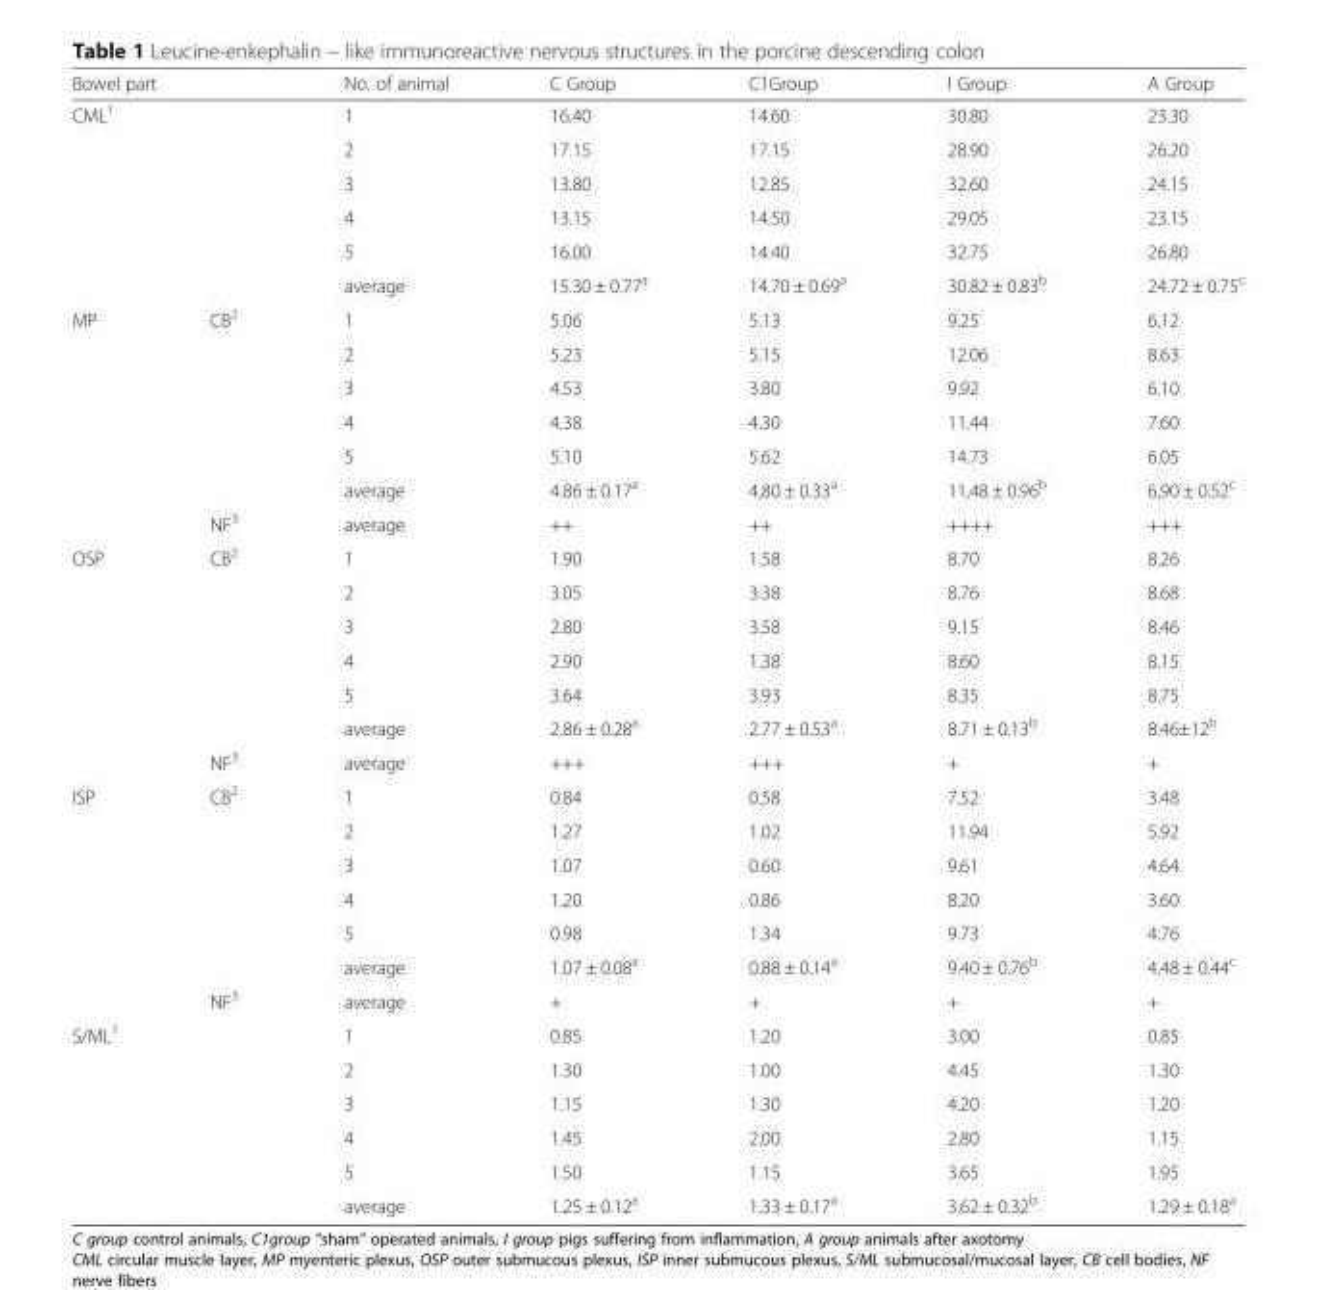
<table><thead><tr><td colspan="2">Bowel part</td><td>No. of animal</td><td>C Group</td><td>C1Group</td><td>I Group</td><td>A Group</td></tr></thead><tbody><tr><td rowspan="6" colspan="2">CML<sup>1</sup></td><td>1</td><td>16.40</td><td>14.60</td><td>30.80</td><td>23.30</td></tr><tr><td>2</td><td>17.15</td><td>17.15</td><td>28.90</td><td>26.20</td></tr><tr><td>3</td><td>13.80</td><td>12.85</td><td>32.60</td><td>24.15</td></tr><tr><td>4</td><td>13.15</td><td>14.50</td><td>29.05</td><td>23.15</td></tr><tr><td>5</td><td>16.00</td><td>14.40</td><td>32.75</td><td>26.80</td></tr><tr><td>average</td><td>15.30 ± 0.77<sup>a</sup></td><td>14.70 ± 0.69<sup>a</sup></td><td>30.82 ± 0.83<sup>b</sup></td><td>24.72 ± 0.75<sup>c</sup></td></tr><tr><td rowspan="7">MP</td><td rowspan="6">CB<sup>2</sup></td><td>1</td><td>5.06</td><td>5.13</td><td>9.25</td><td>6.12</td></tr><tr><td>2</td><td>5.23</td><td>5.15</td><td>12.06</td><td>8.63</td></tr><tr><td>3</td><td>4.53</td><td>3.80</td><td>9.92</td><td>6.10</td></tr><tr><td>4</td><td>4.38</td><td>4.30</td><td>11.44</td><td>7.60</td></tr><tr><td>5</td><td>5.10</td><td>5.62</td><td>14.73</td><td>6.05</td></tr><tr><td>average</td><td>4.86 ± 0.17<sup>a</sup></td><td>4,80 ± 0.33<sup>a</sup></td><td>11,48 ± 0.96<sup>b</sup></td><td>6,90 ± 0.52<sup>c</sup></td></tr><tr><td>NF<sup>3</sup></td><td>average</td><td>++</td><td>++</td><td>++++</td><td>+++</td></tr><tr><td rowspan="7">OSP</td><td rowspan="6">CB<sup>2</sup></td><td>1</td><td>1.90</td><td>1.58</td><td>8.70</td><td>8.26</td></tr><tr><td>2</td><td>3.05</td><td>3.38</td><td>8.76</td><td>8.68</td></tr><tr><td>3</td><td>2.80</td><td>3.58</td><td>9.15</td><td>8.46</td></tr><tr><td>4</td><td>2.90</td><td>1.38</td><td>8.60</td><td>8.15</td></tr><tr><td>5</td><td>3.64</td><td>3.93</td><td>8.35</td><td>8.75</td></tr><tr><td>average</td><td>2.86 ± 0.28<sup>a</sup></td><td>2.77 ± 0.53<sup>a</sup></td><td>8.71 ± 0.13<sup>b</sup></td><td>8.46±12<sup>b</sup></td></tr><tr><td>NF<sup>3</sup></td><td>average</td><td>+++</td><td>+++</td><td>+</td><td>+</td></tr><tr><td rowspan="7">ISP</td><td rowspan="6">CB<sup>2</sup></td><td>1</td><td>0.84</td><td>0.58</td><td>7.52</td><td>3.48</td></tr><tr><td>2</td><td>1.27</td><td>1.02</td><td>11.94</td><td>5.92</td></tr><tr><td>3</td><td>1.07</td><td>0.60</td><td>9.61</td><td>4.64</td></tr><tr><td>4</td><td>1.20</td><td>0.86</td><td>8.20</td><td>3.60</td></tr><tr><td>5</td><td>0.98</td><td>1.34</td><td>9.73</td><td>4.76</td></tr><tr><td>average</td><td>1.07 ± 0.08<sup>a</sup></td><td>0.88 ± 0.14<sup>a</sup></td><td>9.40 ± 0.76<sup>b</sup></td><td>4.48 ± 0.44<sup>c</sup></td></tr><tr><td>NF<sup>3</sup></td><td>average</td><td>+</td><td>+</td><td>+</td><td>+</td></tr><tr><td rowspan="6" colspan="2">S/ML<sup>1</sup></td><td>1</td><td>0.85</td><td>1.20</td><td>3.00</td><td>0.85</td></tr><tr><td>2</td><td>1.30</td><td>1.00</td><td>4.45</td><td>1.30</td></tr><tr><td>3</td><td>1.15</td><td>1.30</td><td>4.20</td><td>1.20</td></tr><tr><td>4</td><td>1.45</td><td>2.00</td><td>2.80</td><td>1.15</td></tr><tr><td>5</td><td>1.50</td><td>1.15</td><td>3.65</td><td>1.95</td></tr><tr><td>average</td><td>1.25 ± 0.12<sup>a</sup></td><td>1.33 ± 0.17<sup>a</sup></td><td>3.62 ± 0.32<sup>b</sup></td><td>1.29 ± 0.18<sup>a</sup></td></tr></tbody></table>